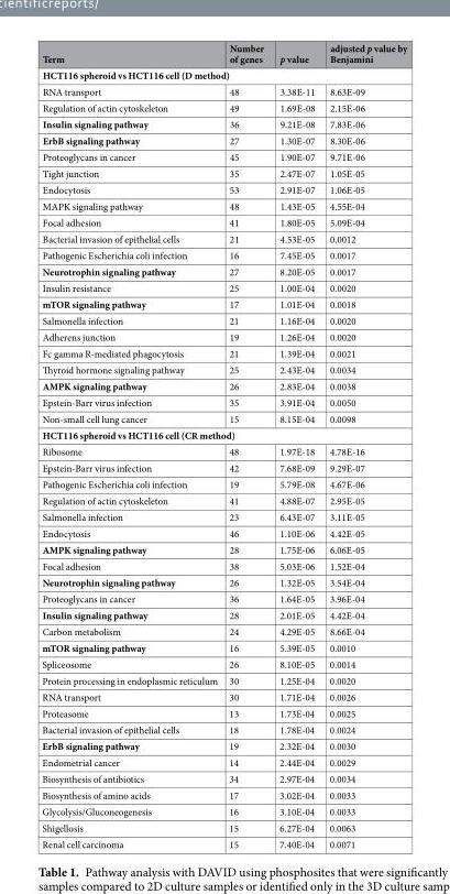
<table><thead><tr><td>Term</td><td>Number of genes</td><td>p value</td><td>adjusted p value by Benjamini</td></tr></thead><tbody><tr><td colspan="4">HCT116 spheroid vs HCT116 cell (D method)</td></tr><tr><td>RNA transport</td><td>48</td><td>3.38E-11</td><td>8.63E-09</td></tr><tr><td>Regulation of actin cytoskeleton</td><td>49</td><td>1.69E-08</td><td>2.15E-06</td></tr><tr><td>Insulin signaling pathway</td><td>36</td><td>9.21E-08</td><td>7.83E-06</td></tr><tr><td>ErbB signaling pathway</td><td>27</td><td>1.30E-07</td><td>8.30E-06</td></tr><tr><td>Proteoglycans in cancer</td><td>45</td><td>1.90E-07</td><td>9.71E-06</td></tr><tr><td>Tight junction</td><td>35</td><td>2.47E-07</td><td>1.05E-05</td></tr><tr><td>Endocytosis</td><td>53</td><td>2.91E-07</td><td>1.06E-05</td></tr><tr><td>MAPK signaling pathway</td><td>48</td><td>1.43E-05</td><td>4.55E-04</td></tr><tr><td>Focal adhesion</td><td>41</td><td>1.80E-05</td><td>5.09E-04</td></tr><tr><td>Bacterial invasion of epithelial cells</td><td>21</td><td>4.53E-05</td><td>0.0012</td></tr><tr><td>Pathogenic Escherichia coli infection</td><td>16</td><td>7.45E-05</td><td>0.0017</td></tr><tr><td>Neurotrophin signaling pathway</td><td>27</td><td>8.20E-05</td><td>0.0017</td></tr><tr><td>Insulin resistance</td><td>25</td><td>1.00E-04</td><td>0.0020</td></tr><tr><td>mTOR signaling pathway</td><td>17</td><td>1.01E-04</td><td>0.0018</td></tr><tr><td>Salmonella infection</td><td>21</td><td>1.16E-04</td><td>0.0020</td></tr><tr><td>Adherens junction</td><td>19</td><td>1.26E-04</td><td>0.0020</td></tr><tr><td>Fc gamma R-mediated phagocytosis</td><td>21</td><td>1.39E-04</td><td>0.0021</td></tr><tr><td>Thyroid hormone signaling pathway</td><td>25</td><td>2.43E-04</td><td>0.0034</td></tr><tr><td>AMPK signaling pathway</td><td>26</td><td>2.83E-04</td><td>0.0038</td></tr><tr><td>Epstein-Barr virus infection</td><td>35</td><td>3.91E-04</td><td>0.0050</td></tr><tr><td>Non-small cell lung cancer</td><td>15</td><td>8.15E-04</td><td>0.0098</td></tr><tr><td colspan="4">HCT116 spheroid vs HCT116 cell (CR method)</td></tr><tr><td>Ribosome</td><td>48</td><td>1.97E-18</td><td>4.78E-16</td></tr><tr><td>Epstein-Barr virus infection</td><td>42</td><td>7.68E-09</td><td>9.29E-07</td></tr><tr><td>Pathogenic Escherichia coli infection</td><td>19</td><td>5.79E-08</td><td>4.67E-06</td></tr><tr><td>Regulation of actin cytoskeleton</td><td>41</td><td>4.88E-07</td><td>2.95E-05</td></tr><tr><td>Salmonella infection</td><td>23</td><td>6.43E-07</td><td>3.11E-05</td></tr><tr><td>Endocytosis</td><td>46</td><td>1.10E-06</td><td>4.42E-05</td></tr><tr><td>AMPK signaling pathway</td><td>28</td><td>1.75E-06</td><td>6.06E-05</td></tr><tr><td>Focal adhesion</td><td>38</td><td>5.03E-06</td><td>1.52E-04</td></tr><tr><td>Neurotrophin signaling pathway</td><td>26</td><td>1.32E-05</td><td>3.54E-04</td></tr><tr><td>Proteoglycans in cancer</td><td>36</td><td>1.64E-05</td><td>3.96E-04</td></tr><tr><td>Insulin signaling pathway</td><td>28</td><td>2.01E-05</td><td>4.42E-04</td></tr><tr><td>Carbon metabolism</td><td>24</td><td>4.29E-05</td><td>8.66E-04</td></tr><tr><td>mTOR signaling pathway</td><td>16</td><td>5.39E-05</td><td>0.0010</td></tr><tr><td>Spliceosome</td><td>26</td><td>8.10E-05</td><td>0.0014</td></tr><tr><td>Protein processing in endoplasmic reticulum</td><td>30</td><td>1.25E-04</td><td>0.0020</td></tr><tr><td>RNA transport</td><td>30</td><td>1.71E-04</td><td>0.0026</td></tr><tr><td>Proteasome</td><td>13</td><td>1.73E-04</td><td>0.0025</td></tr><tr><td>Bacterial invasion of epithelial cells</td><td>18</td><td>1.78E-04</td><td>0.0024</td></tr><tr><td>ErbB signaling pathway</td><td>19</td><td>2.32E-04</td><td>0.0030</td></tr><tr><td>Endometrial cancer</td><td>14</td><td>2.44E-04</td><td>0.0029</td></tr><tr><td>Biosynthesis of antibiotics</td><td>34</td><td>2.97E-04</td><td>0.0034</td></tr><tr><td>Biosynthesis of amino acids</td><td>17</td><td>3.02E-04</td><td>0.0033</td></tr><tr><td>Glycolysis/Gluconeogenesis</td><td>16</td><td>3.10E-04</td><td>0.0033</td></tr><tr><td>Shigellosis</td><td>15</td><td>6.27E-04</td><td>0.0063</td></tr><tr><td>Renal cell carcinoma</td><td>15</td><td>7.40E-04</td><td>0.0071</td></tr></tbody></table>